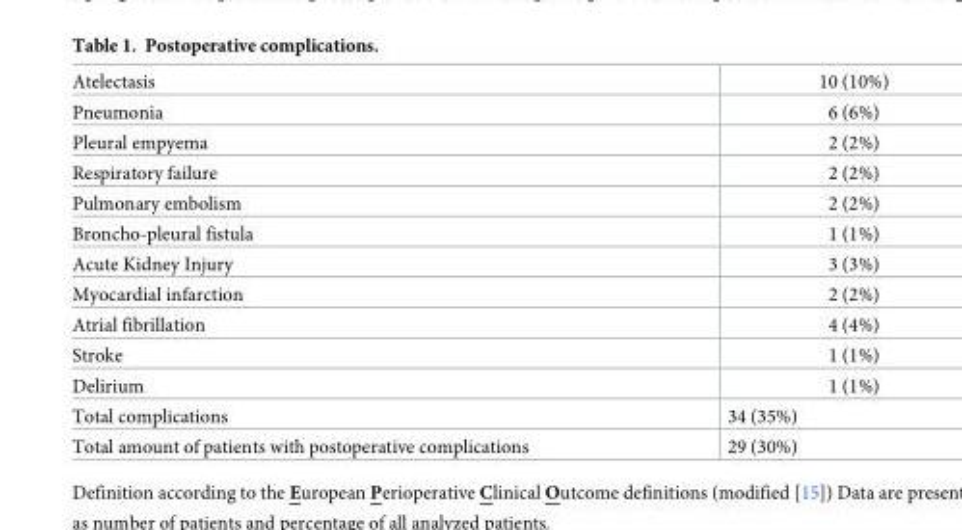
<table><tbody><tr><td>Atelectasis</td><td>10 (10%)</td></tr><tr><td>Pneumonia</td><td>6 (6%)</td></tr><tr><td>Pleural empyema</td><td>2 (2%)</td></tr><tr><td>Respiratory failure</td><td>2 (2%)</td></tr><tr><td>Pulmonary embolism</td><td>2 (2%)</td></tr><tr><td>Broncho-pleural fistula</td><td>1 (1%)</td></tr><tr><td>Acute Kidney Injury</td><td>3 (3%)</td></tr><tr><td>Myocardial infarction</td><td>2 (2%)</td></tr><tr><td>Atrial fibrillation</td><td>4 (4%)</td></tr><tr><td>Stroke</td><td>1 (1%)</td></tr><tr><td>Delirium</td><td>1 (1%)</td></tr><tr><td>Total complications</td><td>34 (35%)</td></tr><tr><td>Total amount of patients with postoperative complications</td><td>29 (30%)</td></tr></tbody></table>